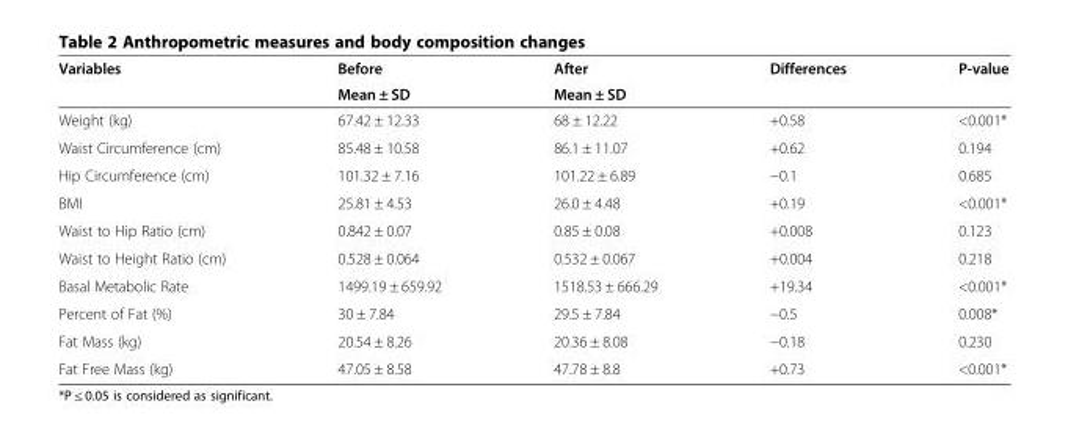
<table><thead><tr><td rowspan="2">Variables</td><td rowspan="2">Before Mean ± SD</td><td rowspan="2">After Mean ± SD</td><td rowspan="2">Differences</td><td rowspan="2">P-value</td></tr><tr></tr></thead><tbody><tr><td>Weight (kg)</td><td>67.42 ± 12.33</td><td>68 ± 12.22</td><td>+0.58</td><td>&lt;0.001*</td></tr><tr><td>Waist Circumference (cm)</td><td>85.48 ± 10.58</td><td>86.1 ± 11.07</td><td>+0.62</td><td>0.194</td></tr><tr><td>Hip Circumference (cm)</td><td>101.32 ± 7.16</td><td>101.22 ± 6.89</td><td>−0.1</td><td>0.685</td></tr><tr><td>BMI</td><td>25.81 ± 4.53</td><td>26.0 ± 4.48</td><td>+0.19</td><td>&lt;0.001*</td></tr><tr><td>Waist to Hip Ratio (cm)</td><td>0.842 ± 0.07</td><td>0.85 ± 0.08</td><td>+0.008</td><td>0.123</td></tr><tr><td>Waist to Height Ratio (cm)</td><td>0.528 ± 0.064</td><td>0.532 ± 0.067</td><td>+0.004</td><td>0.218</td></tr><tr><td>Basal Metabolic Rate</td><td>1499.19 ± 659.92</td><td>1518.53 ± 666.29</td><td>+19.34</td><td>&lt;0.001*</td></tr><tr><td>Percent of Fat (%)</td><td>30 ± 7.84</td><td>29.5 ± 7.84</td><td>−0.5</td><td>0.008*</td></tr><tr><td>Fat Mass (kg)</td><td>20.54 ± 8.26</td><td>20.36 ± 8.08</td><td>−0.18</td><td>0.230</td></tr><tr><td>Fat Free Mass (kg)</td><td>47.05 ± 8.58</td><td>47.78 ± 8.8</td><td>+0.73</td><td>&lt;0.001*</td></tr></tbody></table>